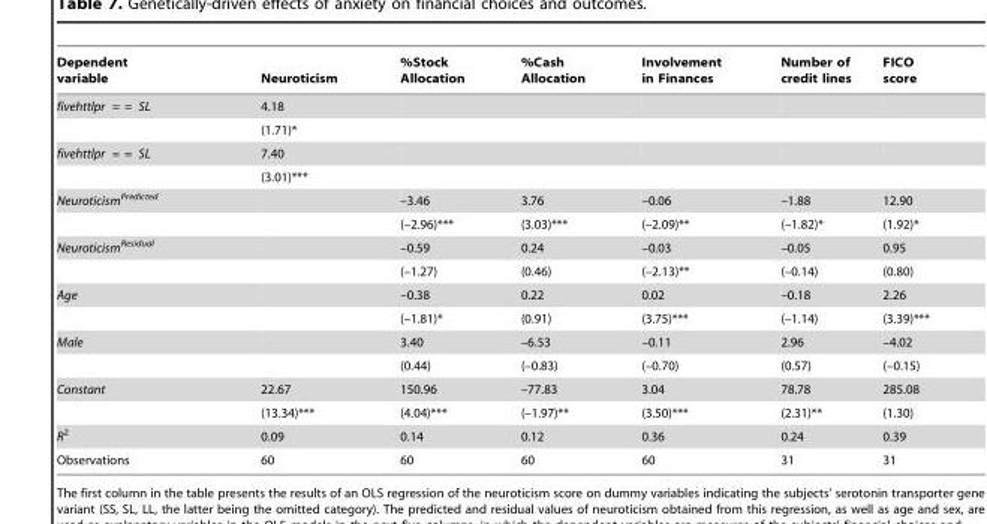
<table><thead><tr><td>Dependent variable</td><td>Neuroticism</td><td>%Stock Allocation</td><td>%Cash Allocation</td><td>Involvement in Finances</td><td>Number of credit lines</td><td>FICO score</td></tr></thead><tbody><tr><td rowspan="2">fivehttlpr = = SL</td><td>4.18</td><td></td><td></td><td></td><td></td><td></td></tr><tr><td>(1.71)*</td><td></td><td></td><td></td><td></td><td></td></tr><tr><td rowspan="2">fivehttlpr = = SL</td><td>7.40</td><td></td><td></td><td></td><td></td><td></td></tr><tr><td>(3.01)***</td><td></td><td></td><td></td><td></td><td></td></tr><tr><td rowspan="2">Neuroticism<sup>Predicted</sup></td><td></td><td>–3.46</td><td>3.76</td><td>–0.06</td><td>–1.88</td><td>12.90</td></tr><tr><td></td><td>(–2.96)***</td><td>(3.03)***</td><td>(–2.09)**</td><td>(–1.82)*</td><td>(1.92)*</td></tr><tr><td rowspan="2">Neuroticism<sup>Residual</sup></td><td></td><td>–0.59</td><td>0.24</td><td>–0.03</td><td>–0.05</td><td>0.95</td></tr><tr><td></td><td>(–1.27)</td><td>(0.46)</td><td>(–2.13)**</td><td>(–0.14)</td><td>(0.80)</td></tr><tr><td rowspan="2">Age</td><td></td><td>–0.38</td><td>0.22</td><td>0.02</td><td>–0.18</td><td>2.26</td></tr><tr><td></td><td>(–1.81)*</td><td>(0.91)</td><td>(3.75)***</td><td>(–1.14)</td><td>(3.39)***</td></tr><tr><td rowspan="2">Male</td><td></td><td>3.40</td><td>–6.53</td><td>–0.11</td><td>2.96</td><td>–4.02</td></tr><tr><td></td><td>(0.44)</td><td>(–0.83)</td><td>(–0.70)</td><td>(0.57)</td><td>(–0.15)</td></tr><tr><td rowspan="2">Constant</td><td>22.67</td><td>150.96</td><td>–77.83</td><td>3.04</td><td>78.78</td><td>285.08</td></tr><tr><td>(13.34)***</td><td>(4.04)***</td><td>(–1.97)**</td><td>(3.50)***</td><td>(2.31)**</td><td>(1.30)</td></tr><tr><td>R<sup>2</sup></td><td>0.09</td><td>0.14</td><td>0.12</td><td>0.36</td><td>0.24</td><td>0.39</td></tr><tr><td>Observations</td><td>60</td><td>60</td><td>60</td><td>60</td><td>31</td><td>31</td></tr></tbody></table>